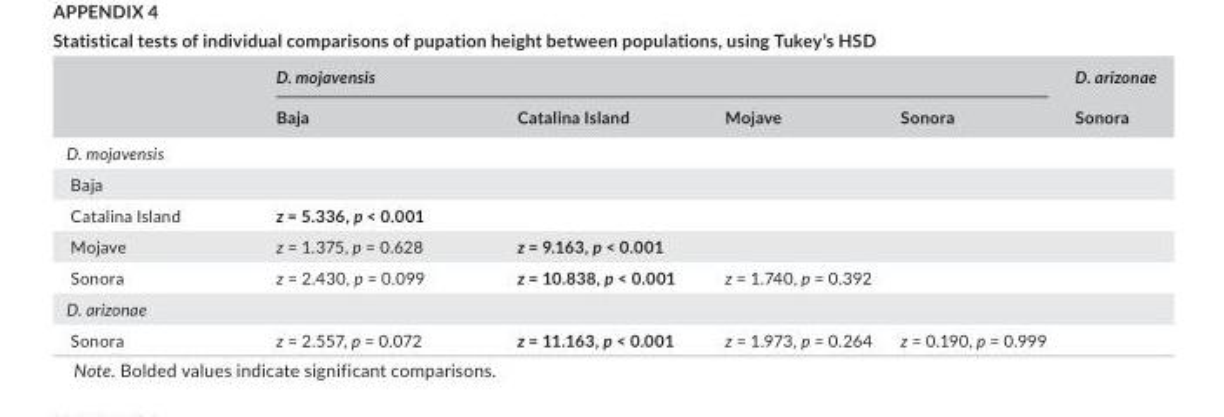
<table><thead><tr><td rowspan="2"></td><td colspan="4">D. mojavensis</td><td rowspan="2">D. arizonae Sonora</td></tr><tr><td>Baja</td><td>Catalina Island</td><td>Mojave</td><td>Sonora</td></tr></thead><tbody><tr><td colspan="6">D. mojavensis</td></tr><tr><td colspan="6">Baja</td></tr><tr><td>Catalina Island</td><td>z = 5.336, p &lt; 0.001</td><td></td><td></td><td></td><td></td></tr><tr><td>Mojave</td><td>z = 1.375, p = 0.628</td><td>z = 9.163, p &lt; 0.001</td><td></td><td></td><td></td></tr><tr><td>Sonora</td><td>z = 2.430, p = 0.099</td><td>z = 10.838, p &lt; 0.001</td><td>z = 1.740, p = 0.392</td><td></td><td></td></tr><tr><td colspan="6">D. arizonae</td></tr><tr><td>Sonora</td><td>z = 2.557, p = 0.072</td><td>z = 11.163, p &lt; 0.001</td><td>z = 1.973, p = 0.264</td><td>z = 0.190, p = 0.999</td><td></td></tr></tbody></table>